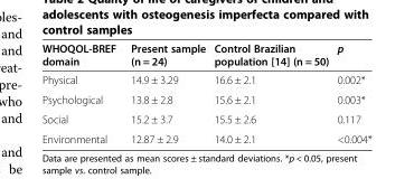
<table><thead><tr><td>WHOQOL-BREF domain</td><td>Present sample (n = 24)</td><td>Control Brazilian population [14] (n = 50)</td><td>p</td></tr></thead><tbody><tr><td>Physical</td><td>14.9 ± 3.29</td><td>16.6 ± 2.1</td><td>0.002*</td></tr><tr><td>Psychological</td><td>13.8 ± 2.8</td><td>15.6 ± 2.1</td><td>0.003*</td></tr><tr><td>Social</td><td>15.2 ± 3.7</td><td>15.5 ± 2.6</td><td>0.117</td></tr><tr><td>Environmental</td><td>12.87 ± 2.9</td><td>14.0 ± 2.1</td><td>&lt;0.004*</td></tr></tbody></table>